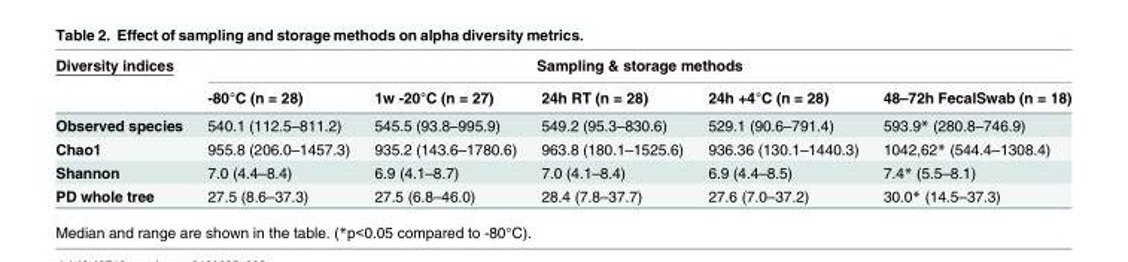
<table><thead><tr><td rowspan="2">Diversity indices</td><td colspan="5">Sampling &amp; storage methods</td></tr><tr><td>-80°C (n = 28)</td><td>1w -20°C (n = 27)</td><td>24h RT (n = 28)</td><td>24h +4°C (n = 28)</td><td>48–72h FecalSwab (n = 18)</td></tr></thead><tbody><tr><td>Observed species</td><td>540.1 (112.5–811.2)</td><td>545.5 (93.8–995.9)</td><td>549.2 (95.3–830.6)</td><td>529.1 (90.6–791.4)</td><td>593.9* (280.8–746.9)</td></tr><tr><td>Chao1</td><td>955.8 (206.0–1457.3)</td><td>935.2 (143.6–1780.6)</td><td>963.8 (180.1–1525.6)</td><td>936.36 (130.1–1440.3)</td><td>1042,62* (544.4–1308.4)</td></tr><tr><td>Shannon</td><td>7.0 (4.4–8.4)</td><td>6.9 (4.1–8.7)</td><td>7.0 (4.1–8.4)</td><td>6.9 (4.4–8.5)</td><td>7.4* (5.5–8.1)</td></tr><tr><td>PD whole tree</td><td>27.5 (8.6–37.3)</td><td>27.5 (6.8–46.0)</td><td>28.4 (7.8–37.7)</td><td>27.6 (7.0–37.2)</td><td>30.0* (14.5–37.3)</td></tr></tbody></table>